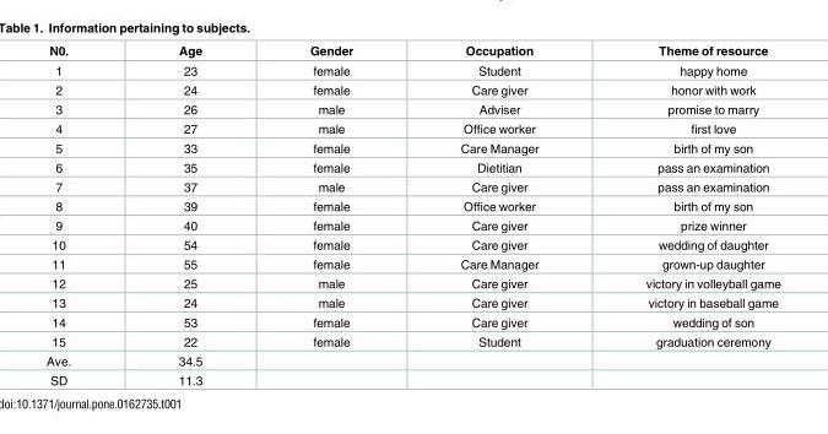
<table><thead><tr><td>N0.</td><td>Age</td><td>Gender</td><td>Occupation</td><td>Theme of resource</td></tr></thead><tbody><tr><td>1</td><td>23</td><td>female</td><td>Student</td><td>happy home</td></tr><tr><td>2</td><td>24</td><td>female</td><td>Care giver</td><td>honor with work</td></tr><tr><td>3</td><td>26</td><td>male</td><td>Adviser</td><td>promise to marry</td></tr><tr><td>4</td><td>27</td><td>male</td><td>Office worker</td><td>first love</td></tr><tr><td>5</td><td>33</td><td>female</td><td>Care Manager</td><td>birth of my son</td></tr><tr><td>6</td><td>35</td><td>female</td><td>Dietitian</td><td>pass an examination</td></tr><tr><td>7</td><td>37</td><td>male</td><td>Care giver</td><td>pass an examination</td></tr><tr><td>8</td><td>39</td><td>female</td><td>Office worker</td><td>birth of my son</td></tr><tr><td>9</td><td>40</td><td>female</td><td>Care giver</td><td>prize winner</td></tr><tr><td>10</td><td>54</td><td>female</td><td>Care giver</td><td>wedding of daughter</td></tr><tr><td>11</td><td>55</td><td>female</td><td>Care Manager</td><td>grown-up daughter</td></tr><tr><td>12</td><td>25</td><td>male</td><td>Care giver</td><td>victory in volleyball game</td></tr><tr><td>13</td><td>24</td><td>male</td><td>Care giver</td><td>victory in baseball game</td></tr><tr><td>14</td><td>53</td><td>female</td><td>Care giver</td><td>wedding of son</td></tr><tr><td>15</td><td>22</td><td>female</td><td>Student</td><td>graduation ceremony</td></tr><tr><td>Ave.</td><td>34.5</td><td></td><td></td><td></td></tr><tr><td>SD</td><td>11.3</td><td></td><td></td><td></td></tr></tbody></table>